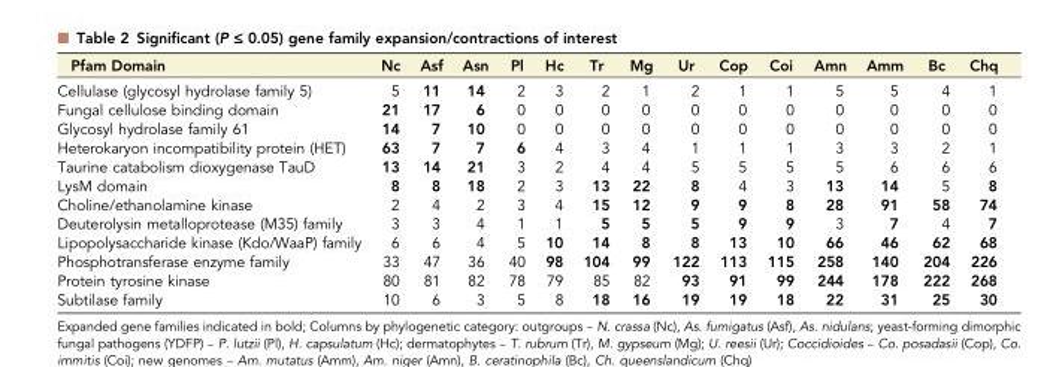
<table><thead><tr><td>Pfam Domain</td><td>Nc</td><td>Asf</td><td>Asn</td><td>Pl</td><td>Hc</td><td>Tr</td><td>Mg</td><td>Ur</td><td>Cop</td><td>Coi</td><td>Amn</td><td>Amm</td><td>Bc</td><td>Chq</td></tr></thead><tbody><tr><td>Cellulase (glycosyl hydrolase family 5)</td><td>5</td><td>11</td><td>14</td><td>2</td><td>3</td><td>2</td><td>1</td><td>2</td><td>1</td><td>1</td><td>5</td><td>5</td><td>4</td><td>1</td></tr><tr><td>Fungal cellulose binding domain</td><td>21</td><td>17</td><td>6</td><td>0</td><td>0</td><td>0</td><td>0</td><td>0</td><td>0</td><td>0</td><td>0</td><td>0</td><td>0</td><td>0</td></tr><tr><td>Glycosyl hydrolase family 61</td><td>14</td><td>7</td><td>10</td><td>0</td><td>0</td><td>0</td><td>0</td><td>0</td><td>0</td><td>0</td><td>0</td><td>0</td><td>0</td><td>0</td></tr><tr><td>Heterokaryon incompatibility protein (HET)</td><td>63</td><td>7</td><td>7</td><td>6</td><td>4</td><td>3</td><td>4</td><td>1</td><td>1</td><td>1</td><td>3</td><td>3</td><td>2</td><td>1</td></tr><tr><td>Taurine catabolism dioxygenase TauD</td><td>13</td><td>14</td><td>21</td><td>3</td><td>2</td><td>4</td><td>4</td><td>5</td><td>5</td><td>5</td><td>5</td><td>6</td><td>6</td><td>6</td></tr><tr><td>LysM domain</td><td>8</td><td>8</td><td>18</td><td>2</td><td>3</td><td>13</td><td>22</td><td>8</td><td>4</td><td>3</td><td>13</td><td>14</td><td>5</td><td>8</td></tr><tr><td>Choline/ethanolamine kinase</td><td>2</td><td>4</td><td>2</td><td>3</td><td>4</td><td>15</td><td>12</td><td>9</td><td>9</td><td>8</td><td>28</td><td>91</td><td>58</td><td>74</td></tr><tr><td>Deuterolysin metalloprotease (M35) family</td><td>3</td><td>3</td><td>4</td><td>1</td><td>1</td><td>5</td><td>5</td><td>5</td><td>9</td><td>9</td><td>3</td><td>7</td><td>4</td><td>7</td></tr><tr><td>Lipopolysaccharide kinase (Kdo/WaaP) family</td><td>6</td><td>6</td><td>4</td><td>5</td><td>10</td><td>14</td><td>8</td><td>8</td><td>13</td><td>10</td><td>66</td><td>46</td><td>62</td><td>68</td></tr><tr><td>Phosphotransferase enzyme family</td><td>33</td><td>47</td><td>36</td><td>40</td><td>98</td><td>104</td><td>99</td><td>122</td><td>113</td><td>115</td><td>258</td><td>140</td><td>204</td><td>226</td></tr><tr><td>Protein tyrosine kinase</td><td>80</td><td>81</td><td>82</td><td>78</td><td>79</td><td>85</td><td>82</td><td>93</td><td>91</td><td>99</td><td>244</td><td>178</td><td>222</td><td>268</td></tr><tr><td>Subtilase family</td><td>10</td><td>6</td><td>3</td><td>5</td><td>8</td><td>18</td><td>16</td><td>19</td><td>19</td><td>18</td><td>22</td><td>31</td><td>25</td><td>30</td></tr></tbody></table>